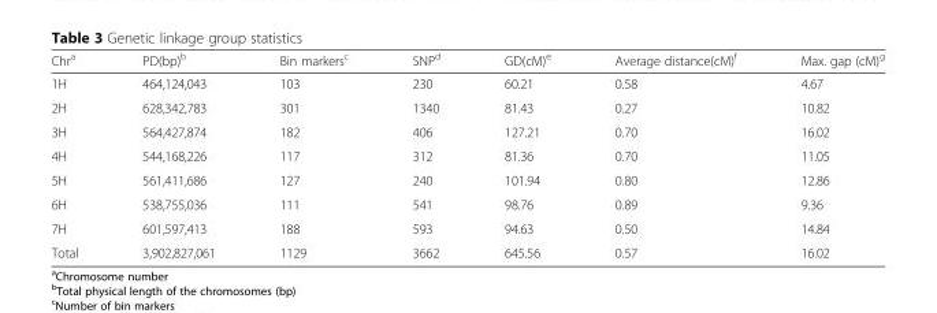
<table><thead><tr><td>Chr<sup>a</sup></td><td>PD(bp)<sup>b</sup></td><td>Bin markers<sup>c</sup></td><td>SNP<sup>d</sup></td><td>GD(cM)<sup>e</sup></td><td>Average distance(cM)<sup>f</sup></td><td>Max. gap (cM)<sup>g</sup></td></tr></thead><tbody><tr><td>1H</td><td>464,124,043</td><td>103</td><td>230</td><td>60.21</td><td>0.58</td><td>4.67</td></tr><tr><td>2H</td><td>628,342,783</td><td>301</td><td>1340</td><td>81.43</td><td>0.27</td><td>10.82</td></tr><tr><td>3H</td><td>564,427,874</td><td>182</td><td>406</td><td>127.21</td><td>0.70</td><td>16.02</td></tr><tr><td>4H</td><td>544,168,226</td><td>117</td><td>312</td><td>81.36</td><td>0.70</td><td>11.05</td></tr><tr><td>5H</td><td>561,411,686</td><td>127</td><td>240</td><td>101.94</td><td>0.80</td><td>12.86</td></tr><tr><td>6H</td><td>538,755,036</td><td>111</td><td>541</td><td>98.76</td><td>0.89</td><td>9.36</td></tr><tr><td>7H</td><td>601,597,413</td><td>188</td><td>593</td><td>94.63</td><td>0.50</td><td>14.84</td></tr><tr><td>Total</td><td>3,902,827,061</td><td>1129</td><td>3662</td><td>645.56</td><td>0.57</td><td>16.02</td></tr></tbody></table>